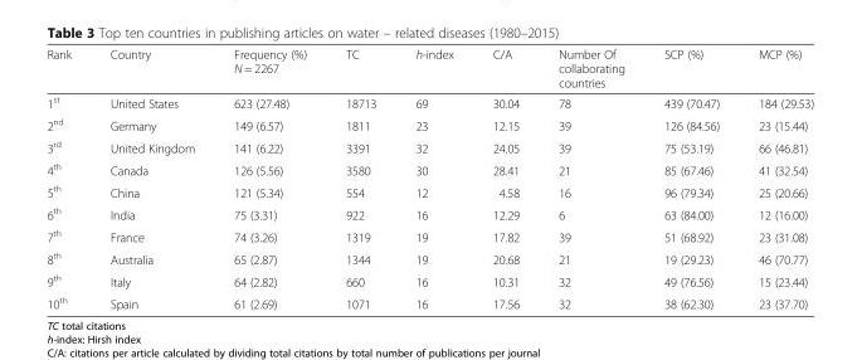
<table><thead><tr><td>Rank</td><td>Country</td><td>Frequency (%) N = 2267</td><td>TC</td><td>h-index</td><td>C/A</td><td>Number Of collaborating countries</td><td>SCP (%)</td><td>MCP (%)</td></tr></thead><tbody><tr><td>1<sup>st</sup></td><td>United States</td><td>623 (27.48)</td><td>18713</td><td>69</td><td>30.04</td><td>78</td><td>439 (70.47)</td><td>184 (29.53)</td></tr><tr><td>2<sup>nd</sup></td><td>Germany</td><td>149 (6.57)</td><td>1811</td><td>23</td><td>12.15</td><td>39</td><td>126 (84.56)</td><td>23 (15.44)</td></tr><tr><td>3<sup>rd</sup></td><td>United Kingdom</td><td>141 (6.22)</td><td>3391</td><td>32</td><td>24.05</td><td>39</td><td>75 (53.19)</td><td>66 (46.81)</td></tr><tr><td>4<sup>th</sup></td><td>Canada</td><td>126 (5.56)</td><td>3580</td><td>30</td><td>28.41</td><td>21</td><td>85 (67.46)</td><td>41 (32.54)</td></tr><tr><td>5<sup>th</sup></td><td>China</td><td>121 (5.34)</td><td>554</td><td>12</td><td>4.58</td><td>16</td><td>96 (79.34)</td><td>25 (20.66)</td></tr><tr><td>6<sup>th</sup></td><td>India</td><td>75 (3.31)</td><td>922</td><td>16</td><td>12.29</td><td>6</td><td>63 (84.00)</td><td>12 (16.00)</td></tr><tr><td>7<sup>th</sup></td><td>France</td><td>74 (3.26)</td><td>1319</td><td>19</td><td>17.82</td><td>39</td><td>51 (68.92)</td><td>23 (31.08)</td></tr><tr><td>8<sup>th</sup></td><td>Australia</td><td>65 (2.87)</td><td>1344</td><td>19</td><td>20.68</td><td>21</td><td>19 (29.23)</td><td>46 (70.77)</td></tr><tr><td>9<sup>th</sup></td><td>Italy</td><td>64 (2.82)</td><td>660</td><td>16</td><td>10.31</td><td>32</td><td>49 (76.56)</td><td>15 (23.44)</td></tr><tr><td>10<sup>th</sup></td><td>Spain</td><td>61 (2.69)</td><td>1071</td><td>16</td><td>17.56</td><td>32</td><td>38 (62.30)</td><td>23 (37.70)</td></tr></tbody></table>